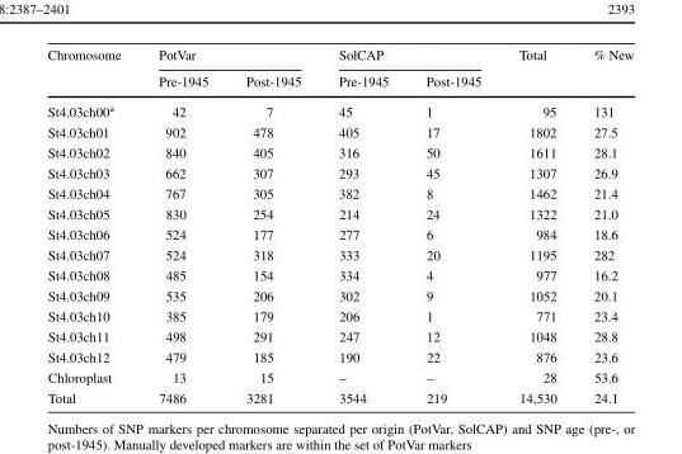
<table><thead><tr><td rowspan="2">Chromosome</td><td colspan="2">PotVar</td><td colspan="2">SolCAP</td><td rowspan="2">Total</td><td rowspan="2">% New</td></tr><tr><td>Pre-1945</td><td>Post-1945</td><td>Pre-1945</td><td>Post-1945</td></tr></thead><tbody><tr><td>St4.03ch00<sup>a</sup></td><td>42</td><td>7</td><td>45</td><td>1</td><td>95</td><td>131</td></tr><tr><td>St4.03ch01</td><td>902</td><td>478</td><td>405</td><td>17</td><td>1802</td><td>27.5</td></tr><tr><td>St4.03ch02</td><td>840</td><td>405</td><td>316</td><td>50</td><td>1611</td><td>28.1</td></tr><tr><td>St4.03ch03</td><td>662</td><td>307</td><td>293</td><td>45</td><td>1307</td><td>26.9</td></tr><tr><td>St4.03ch04</td><td>767</td><td>305</td><td>382</td><td>8</td><td>1462</td><td>21.4</td></tr><tr><td>St4.03ch05</td><td>830</td><td>254</td><td>214</td><td>24</td><td>1322</td><td>21.0</td></tr><tr><td>St4.03ch06</td><td>524</td><td>177</td><td>277</td><td>6</td><td>984</td><td>18.6</td></tr><tr><td>St4.03ch07</td><td>524</td><td>318</td><td>333</td><td>20</td><td>1195</td><td>282</td></tr><tr><td>St4.03ch08</td><td>485</td><td>154</td><td>334</td><td>4</td><td>977</td><td>16.2</td></tr><tr><td>St4.03ch09</td><td>535</td><td>206</td><td>302</td><td>9</td><td>1052</td><td>20.1</td></tr><tr><td>St4.03ch10</td><td>385</td><td>179</td><td>206</td><td>1</td><td>771</td><td>23.4</td></tr><tr><td>St4.03ch11</td><td>498</td><td>291</td><td>247</td><td>12</td><td>1048</td><td>28.8</td></tr><tr><td>St4.03ch12</td><td>479</td><td>185</td><td>190</td><td>22</td><td>876</td><td>23.6</td></tr><tr><td>Chloroplast</td><td>13</td><td>15</td><td>–</td><td>–</td><td>28</td><td>53.6</td></tr><tr><td>Total</td><td>7486</td><td>3281</td><td>3544</td><td>219</td><td>14,530</td><td>24.1</td></tr></tbody></table>